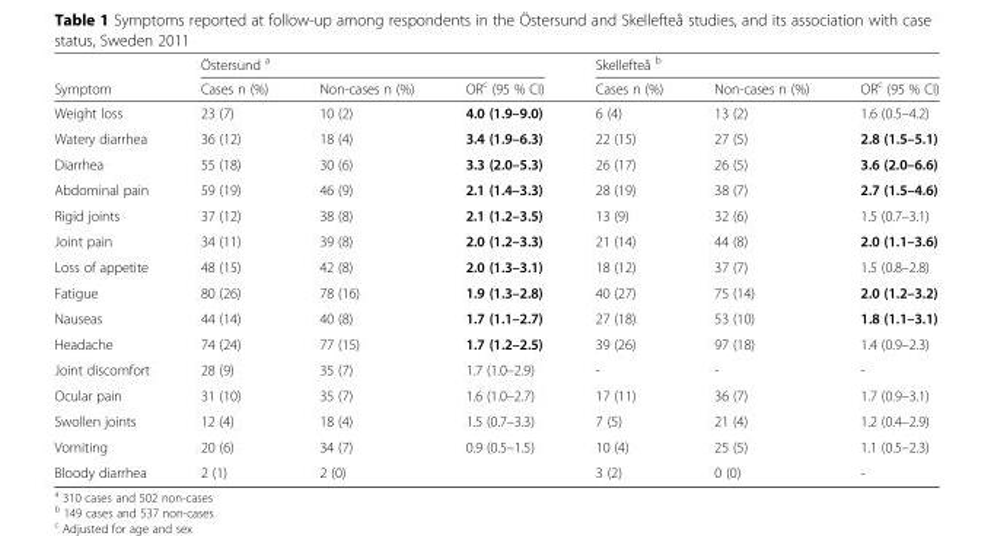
<table><thead><tr><td rowspan="2">Symptom</td><td colspan="3">Östersund <sup>a</sup></td><td colspan="3">Skellefteå <sup>b</sup></td></tr><tr><td>Cases n (%)</td><td>Non-cases n (%)</td><td>OR<sup>c</sup> (95 % CI)</td><td>Cases n (%)</td><td>Non-cases n (%)</td><td>OR<sup>c</sup> (95 % CI)</td></tr></thead><tbody><tr><td>Weight loss</td><td>23 (7)</td><td>10 (2)</td><td>4.0 (1.9–9.0)</td><td>6 (4)</td><td>13 (2)</td><td>1.6 (0.5–4.2)</td></tr><tr><td>Watery diarrhea</td><td>36 (12)</td><td>18 (4)</td><td>3.4 (1.9–6.3)</td><td>22 (15)</td><td>27 (5)</td><td>2.8 (1.5–5.1)</td></tr><tr><td>Diarrhea</td><td>55 (18)</td><td>30 (6)</td><td>3.3 (2.0–5.3)</td><td>26 (17)</td><td>26 (5)</td><td>3.6 (2.0–6.6)</td></tr><tr><td>Abdominal pain</td><td>59 (19)</td><td>46 (9)</td><td>2.1 (1.4–3.3)</td><td>28 (19)</td><td>38 (7)</td><td>2.7 (1.5–4.6)</td></tr><tr><td>Rigid joints</td><td>37 (12)</td><td>38 (8)</td><td>2.1 (1.2–3.5)</td><td>13 (9)</td><td>32 (6)</td><td>1.5 (0.7–3.1)</td></tr><tr><td>Joint pain</td><td>34 (11)</td><td>39 (8)</td><td>2.0 (1.2–3.3)</td><td>21 (14)</td><td>44 (8)</td><td>2.0 (1.1–3.6)</td></tr><tr><td>Loss of appetite</td><td>48 (15)</td><td>42 (8)</td><td>2.0 (1.3–3.1)</td><td>18 (12)</td><td>37 (7)</td><td>1.5 (0.8–2.8)</td></tr><tr><td>Fatigue</td><td>80 (26)</td><td>78 (16)</td><td>1.9 (1.3–2.8)</td><td>40 (27)</td><td>75 (14)</td><td>2.0 (1.2–3.2)</td></tr><tr><td>Nauseas</td><td>44 (14)</td><td>40 (8)</td><td>1.7 (1.1–2.7)</td><td>27 (18)</td><td>53 (10)</td><td>1.8 (1.1–3.1)</td></tr><tr><td>Headache</td><td>74 (24)</td><td>77 (15)</td><td>1.7 (1.2–2.5)</td><td>39 (26)</td><td>97 (18)</td><td>1.4 (0.9–2.3)</td></tr><tr><td>Joint discomfort</td><td>28 (9)</td><td>35 (7)</td><td>1.7 (1.0–2.9)</td><td>-</td><td>-</td><td>-</td></tr><tr><td>Ocular pain</td><td>31 (10)</td><td>35 (7)</td><td>1.6 (1.0–2.7)</td><td>17 (11)</td><td>36 (7)</td><td>1.7 (0.9–3.1)</td></tr><tr><td>Swollen joints</td><td>12 (4)</td><td>18 (4)</td><td>1.5 (0.7–3.3)</td><td>7 (5)</td><td>21 (4)</td><td>1.2 (0.4–2.9)</td></tr><tr><td>Vomiting</td><td>20 (6)</td><td>34 (7)</td><td>0.9 (0.5–1.5)</td><td>10 (4)</td><td>25 (5)</td><td>1.1 (0.5–2.3)</td></tr><tr><td>Bloody diarrhea</td><td>2 (1)</td><td>2 (0)</td><td></td><td>3 (2)</td><td>0 (0)</td><td>-</td></tr></tbody></table>